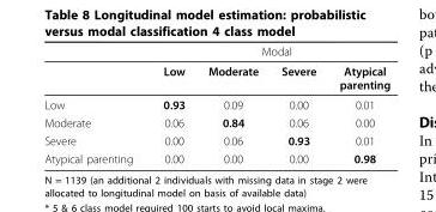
<table><thead><tr><td rowspan="2"></td><td colspan="4">Modal</td></tr><tr><td>Low</td><td>Moderate</td><td>Severe</td><td>Atypical parenting</td></tr></thead><tbody><tr><td>Low</td><td>0.93</td><td>0.09</td><td>0.00</td><td>0.01</td></tr><tr><td>Moderate</td><td>0.06</td><td>0.84</td><td>0.06</td><td>0.00</td></tr><tr><td>Severe</td><td>0.00</td><td>0.06</td><td>0.93</td><td>0.01</td></tr><tr><td>Atypical parenting</td><td>0.00</td><td>0.00</td><td>0.00</td><td>0.98</td></tr></tbody></table>